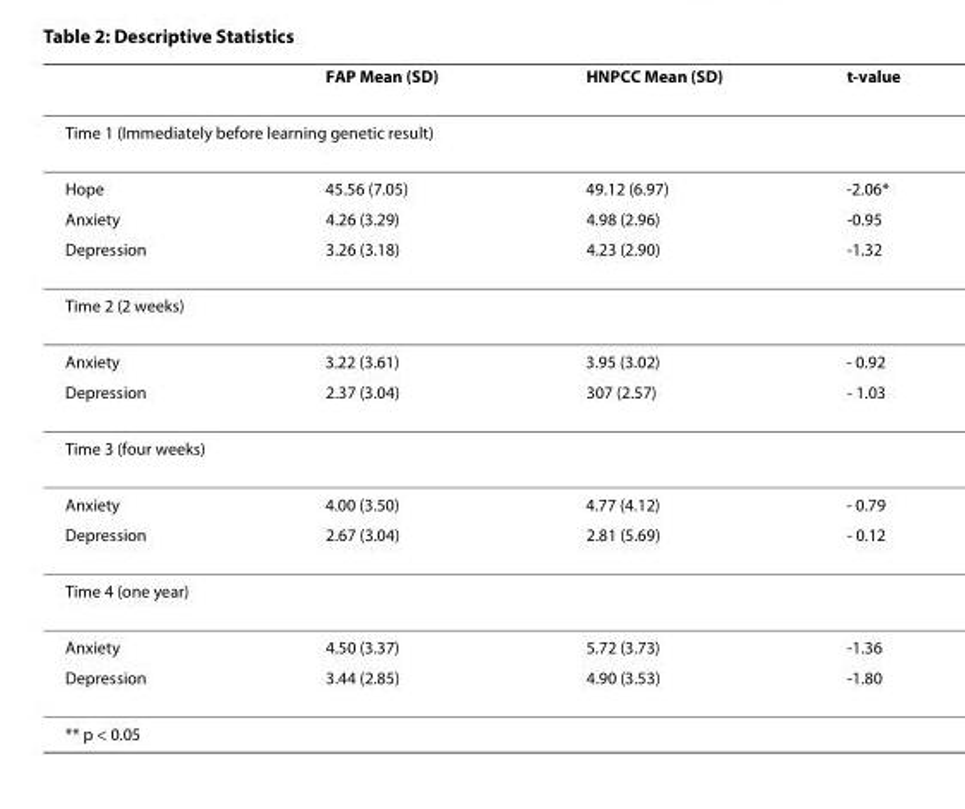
<table><thead><tr><td></td><td>FAP Mean (SD)</td><td>HNPCC Mean (SD)</td><td>t-value</td></tr></thead><tbody><tr><td colspan="4">Time 1 (Immediately before learning genetic result)</td></tr><tr><td>Hope</td><td>45.56 (7.05)</td><td>49.12 (6.97)</td><td>-2.06*</td></tr><tr><td>Anxiety</td><td>4.26 (3.29)</td><td>4.98 (2.96)</td><td>-0.95</td></tr><tr><td>Depression</td><td>3.26 (3.18)</td><td>4.23 (2.90)</td><td>-1.32</td></tr><tr><td colspan="4">Time 2 (2 weeks)</td></tr><tr><td>Anxiety</td><td>3.22 (3.61)</td><td>3.95 (3.02)</td><td>- 0.92</td></tr><tr><td>Depression</td><td>2.37 (3.04)</td><td>307 (2.57)</td><td>- 1.03</td></tr><tr><td colspan="4">Time 3 (four weeks)</td></tr><tr><td>Anxiety</td><td>4.00 (3.50)</td><td>4.77 (4.12)</td><td>- 0.79</td></tr><tr><td>Depression</td><td>2.67 (3.04)</td><td>2.81 (5.69)</td><td>- 0.12</td></tr><tr><td colspan="4">Time 4 (one year)</td></tr><tr><td>Anxiety</td><td>4.50 (3.37)</td><td>5.72 (3.73)</td><td>-1.36</td></tr><tr><td>Depression</td><td>3.44 (2.85)</td><td>4.90 (3.53)</td><td>-1.80</td></tr><tr><td colspan="4">** p &lt; 0.05</td></tr></tbody></table>